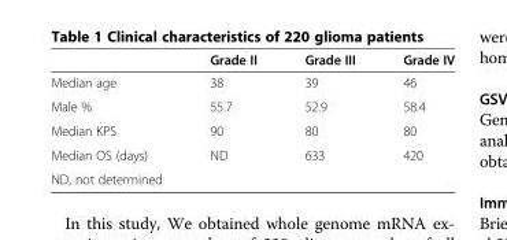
<table><thead><tr><td></td><td>Grade II</td><td>Grade III</td><td>Grade IV</td></tr></thead><tbody><tr><td>Median age</td><td>38</td><td>39</td><td>46</td></tr><tr><td>Male %</td><td>55.7</td><td>52.9</td><td>58.4</td></tr><tr><td>Median KPS</td><td>90</td><td>80</td><td>80</td></tr><tr><td>Median OS (days)</td><td>ND</td><td>633</td><td>420</td></tr><tr><td>ND, not determined</td><td></td><td></td><td></td></tr></tbody></table>